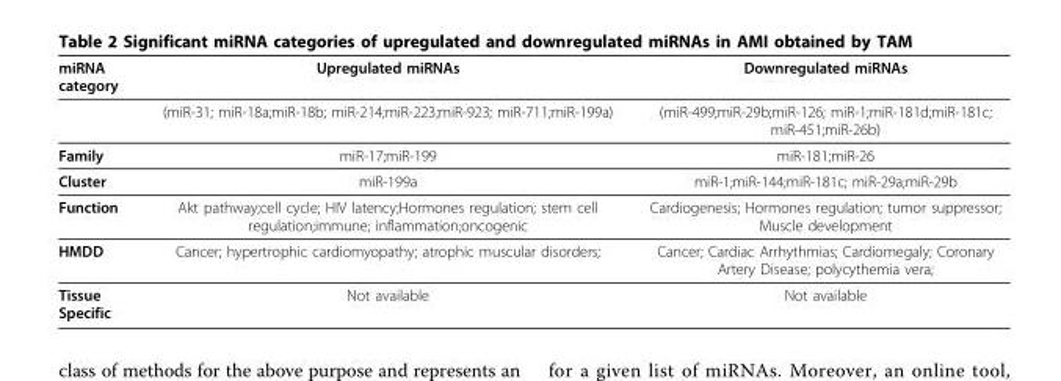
<table><thead><tr><td>miRNA category</td><td>Upregulated miRNAs</td><td>Downregulated miRNAs</td></tr></thead><tbody><tr><td></td><td>(miR-31; miR-18a;miR-18b; miR-214;miR-223;miR-923; miR-711;miR-199a)</td><td>(miR-499;miR-29b;miR-126; miR-1;miR-181d;miR-181c; miR-451;miR-26b)</td></tr><tr><td>Family</td><td>miR-17;miR-199</td><td>miR-181;miR-26</td></tr><tr><td>Cluster</td><td>miR-199a</td><td>miR-1;miR-144;miR-181c; miR-29a;miR-29b</td></tr><tr><td>Function</td><td>Akt pathway;cell cycle; HIV latency;Hormones regulation; stem cell regulation;immune; inflammation;oncogenic</td><td>Cardiogenesis; Hormones regulation; tumor suppressor; Muscle development</td></tr><tr><td>HMDD</td><td>Cancer; hypertrophic cardiomyopathy; atrophic muscular disorders;</td><td>Cancer; Cardiac Arrhythmias; Cardiomegaly; Coronary Artery Disease; polycythemia vera;</td></tr><tr><td>Tissue Specific</td><td>Not available</td><td>Not available</td></tr></tbody></table>